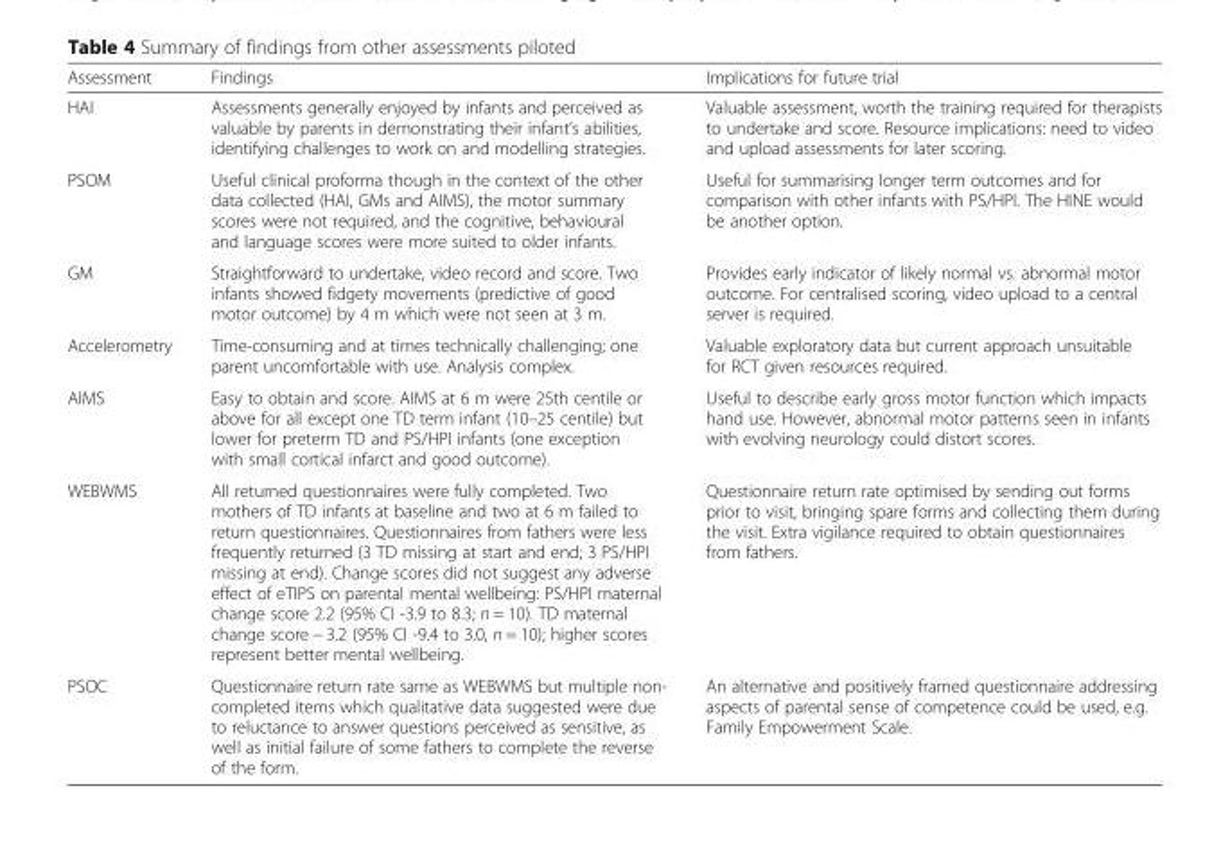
<table><thead><tr><td>Assessment</td><td>Findings</td><td>Implications for future trial</td></tr></thead><tbody><tr><td>HAI</td><td>Assessments generally enjoyed by infants and perceived as valuable by parents in demonstrating their infant’s abilities, identifying challenges to work on and modelling strategies.</td><td>Valuable assessment, worth the training required for therapists to undertake and score. Resource implications: need to video and upload assessments for later scoring.</td></tr><tr><td>PSOM</td><td>Useful clinical proforma though in the context of the other data collected (HAI, GMs and AIMS), the motor summary scores were not required, and the cognitive, behavioural and language scores were more suited to older infants.</td><td>Useful for summarising longer term outcomes and for comparison with other infants with PS/HPI. The HINE would be another option.</td></tr><tr><td>GM</td><td>Straightforward to undertake, video record and score. Two infants showed fidgety movements (predictive of good motor outcome) by 4 m which were not seen at 3 m.</td><td>Provides early indicator of likely normal vs. abnormal motor outcome. For centralised scoring, video upload to a central server is required.</td></tr><tr><td>Accelerometry</td><td>Time-consuming and at times technically challenging; one parent uncomfortable with use. Analysis complex.</td><td>Valuable exploratory data but current approach unsuitable for RCT given resources required.</td></tr><tr><td>AIMS</td><td>Easy to obtain and score. AIMS at 6 m were 25th centile or above for all except one TD term infant (10–25 centile) but lower for preterm TD and PS/HPI infants (one exception with small cortical infarct and good outcome).</td><td>Useful to describe early gross motor function which impacts hand use. However, abnormal motor patterns seen in infants with evolving neurology could distort scores.</td></tr><tr><td>WEBWMS</td><td>All returned questionnaires were fully completed. Two mothers of TD infants at baseline and two at 6 m failed to return questionnaires. Questionnaires from fathers were less frequently returned (3 TD missing at start and end; 3 PS/HPI missing at end). Change scores did not suggest any adverse effect of eTIPS on parental mental wellbeing: PS/HPI maternal change score 2.2 (95% CI -3.9 to 8.3; n = 10). TD maternal change score − 3.2 (95% CI -9.4 to 3.0, n = 10); higher scores represent better mental wellbeing.</td><td>Questionnaire return rate optimised by sending out forms prior to visit, bringing spare forms and collecting them during the visit. Extra vigilance required to obtain questionnaires from fathers.</td></tr><tr><td>PSOC</td><td>Questionnaire return rate same as WEBWMS but multiple non- completed items which qualitative data suggested were due to reluctance to answer questions perceived as sensitive, as well as initial failure of some fathers to complete the reverse of the form.</td><td>An alternative and positively framed questionnaire addressing aspects of parental sense of competence could be used, e.g. Family Empowerment Scale.</td></tr></tbody></table>